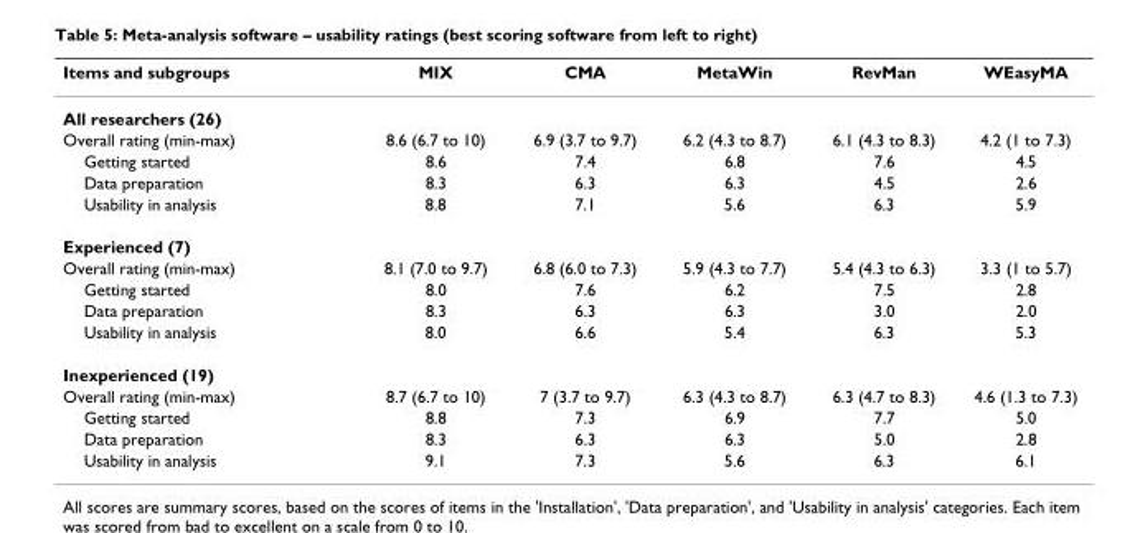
<table><thead><tr><td>Items and subgroups</td><td>MIX</td><td>CMA</td><td>MetaWin</td><td>RevMan</td><td>WEasyMA</td></tr></thead><tbody><tr><td colspan="6">All researchers (26)</td></tr><tr><td>Overall rating (min-max)</td><td>8.6 (6.7 to 10)</td><td>6.9 (3.7 to 9.7)</td><td>6.2 (4.3 to 8.7)</td><td>6.1 (4.3 to 8.3)</td><td>4.2 (1 to 7.3)</td></tr><tr><td>Getting started</td><td>8.6</td><td>7.4</td><td>6.8</td><td>7.6</td><td>4.5</td></tr><tr><td>Data preparation</td><td>8.3</td><td>6.3</td><td>6.3</td><td>4.5</td><td>2.6</td></tr><tr><td>Usability in analysis</td><td>8.8</td><td>7.1</td><td>5.6</td><td>6.3</td><td>5.9</td></tr><tr><td colspan="6">Experienced (7)</td></tr><tr><td>Overall rating (min-max)</td><td>8.1 (7.0 to 9.7)</td><td>6.8 (6.0 to 7.3)</td><td>5.9 (4.3 to 7.7)</td><td>5.4 (4.3 to 6.3)</td><td>3.3 (1 to 5.7)</td></tr><tr><td>Getting started</td><td>8.0</td><td>7.6</td><td>6.2</td><td>7.5</td><td>2.8</td></tr><tr><td>Data preparation</td><td>8.3</td><td>6.3</td><td>6.3</td><td>3.0</td><td>2.0</td></tr><tr><td>Usability in analysis</td><td>8.0</td><td>6.6</td><td>5.4</td><td>6.3</td><td>5.3</td></tr><tr><td colspan="6">Inexperienced (19)</td></tr><tr><td>Overall rating (min-max)</td><td>8.7 (6.7 to 10)</td><td>7 (3.7 to 9.7)</td><td>6.3 (4.3 to 8.7)</td><td>6.3 (4.7 to 8.3)</td><td>4.6 (1.3 to 7.3)</td></tr><tr><td>Getting started</td><td>8.8</td><td>7.3</td><td>6.9</td><td>7.7</td><td>5.0</td></tr><tr><td>Data preparation</td><td>8.3</td><td>6.3</td><td>6.3</td><td>5.0</td><td>2.8</td></tr><tr><td>Usability in analysis</td><td>9.1</td><td>7.3</td><td>5.6</td><td>6.3</td><td>6.1</td></tr></tbody></table>